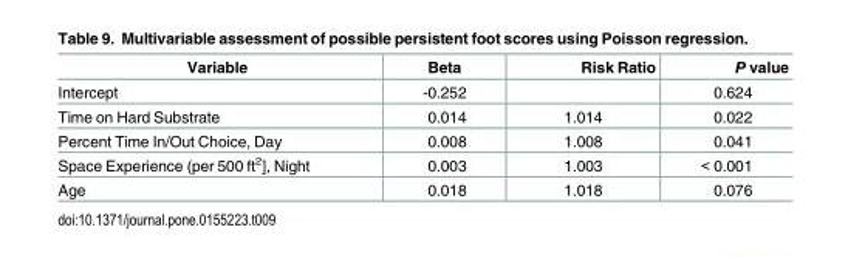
<table><thead><tr><td>Variable</td><td>Beta</td><td>Risk Ratio</td><td>P value</td></tr></thead><tbody><tr><td>Intercept</td><td>-0.252</td><td></td><td>0.624</td></tr><tr><td>Time on Hard Substrate</td><td>0.014</td><td>1.014</td><td>0.022</td></tr><tr><td>Percent Time In/Out Choice, Day</td><td>0.008</td><td>1.008</td><td>0.041</td></tr><tr><td>Space Experience (per 500 ft<sup>2</sup>], Night</td><td>0.003</td><td>1.003</td><td>&lt; 0.001</td></tr><tr><td>Age</td><td>0.018</td><td>1.018</td><td>0.076</td></tr></tbody></table>